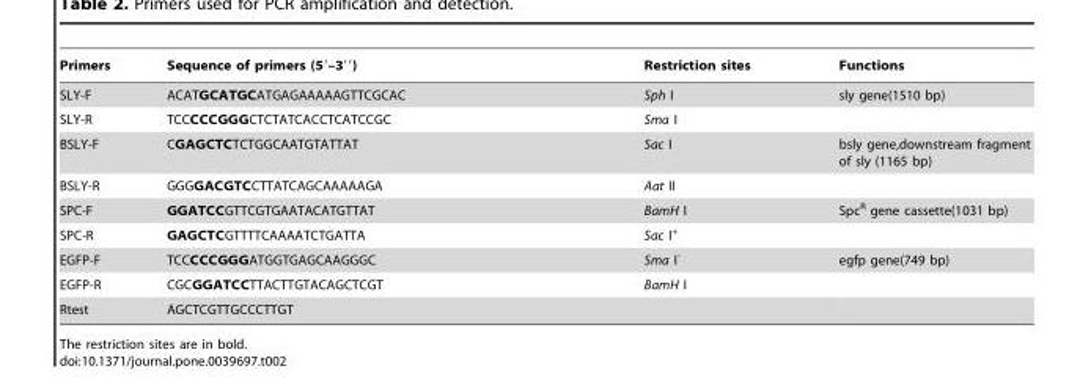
<table><thead><tr><td>Primers</td><td>Sequence of primers (5′–3′′)</td><td>Restriction sites</td><td>Functions</td></tr></thead><tbody><tr><td>SLY-F</td><td>ACATGCATGCATGAGAAAAAGTTCGCAC</td><td>Sph I</td><td>sly gene(1510 bp)</td></tr><tr><td>SLY-R</td><td>TCCCCCGGGCTCTATCACCTCATCCGC</td><td>Sma I</td><td></td></tr><tr><td>BSLY-F</td><td>CGAGCTCTCTGGCAATGTATTAT</td><td>Sac I</td><td>bsly gene,downstream fragment of sly (1165 bp)</td></tr><tr><td>BSLY-R</td><td>GGGGACGTCCTTATCAGCAAAAAGA</td><td>Aat II</td><td></td></tr><tr><td>SPC-F</td><td>GGATCCGTTCGTGAATACATGTTAT</td><td>BamH I</td><td>Spc<sup>R</sup> gene cassette(1031 bp)</td></tr><tr><td>SPC-R</td><td>GAGCTCGTTTTCAAAATCTGATTA</td><td>Sac I<sup>+</sup></td><td></td></tr><tr><td>EGFP-F</td><td>TCCCCCGGGATGGTGAGCAAGGGC</td><td>Sma I<sup>-</sup></td><td>egfp gene(749 bp)</td></tr><tr><td>EGFP-R</td><td>CGCGGATCCTTACTTGTACAGCTCGT</td><td>BamH I</td><td></td></tr><tr><td>Rtest</td><td>AGCTCGTTGCCCTTGT</td><td></td><td></td></tr></tbody></table>